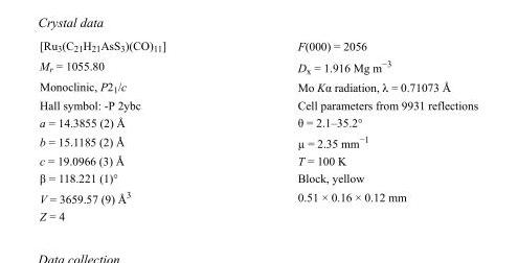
<table><tbody><tr><td>[Ru<sub>3</sub>(C<sub>21</sub>H<sub>21</sub>AsS<sub>3</sub>)(CO)<sub>11</sub>]</td><td>F(000) = 2056</td></tr><tr><td>M<sub>r</sub> = 1055.80</td><td>D<sub>x</sub> = 1.916 Mg m<sup>−3</sup></td></tr><tr><td>Monoclinic, P2<sub>1</sub>/c</td><td>Mo Kα radiation, λ = 0.71073 Å</td></tr><tr><td>Hall symbol: -P 2ybc</td><td>Cell parameters from 9931 reflections</td></tr><tr><td>a = 14.3855 (2) Å</td><td>θ = 2.1–35.2°</td></tr><tr><td>b = 15.1185 (2) Å</td><td>µ = 2.35 mm<sup>−1</sup></td></tr><tr><td>c = 19.0966 (3) Å</td><td>T = 100 K</td></tr><tr><td>β = 118.221 (1)°</td><td>Block, yellow</td></tr><tr><td>V = 3659.57 (9) Å<sup>3</sup></td><td>0.51 × 0.16 × 0.12 mm</td></tr><tr><td>Z = 4</td><td></td></tr></tbody></table>